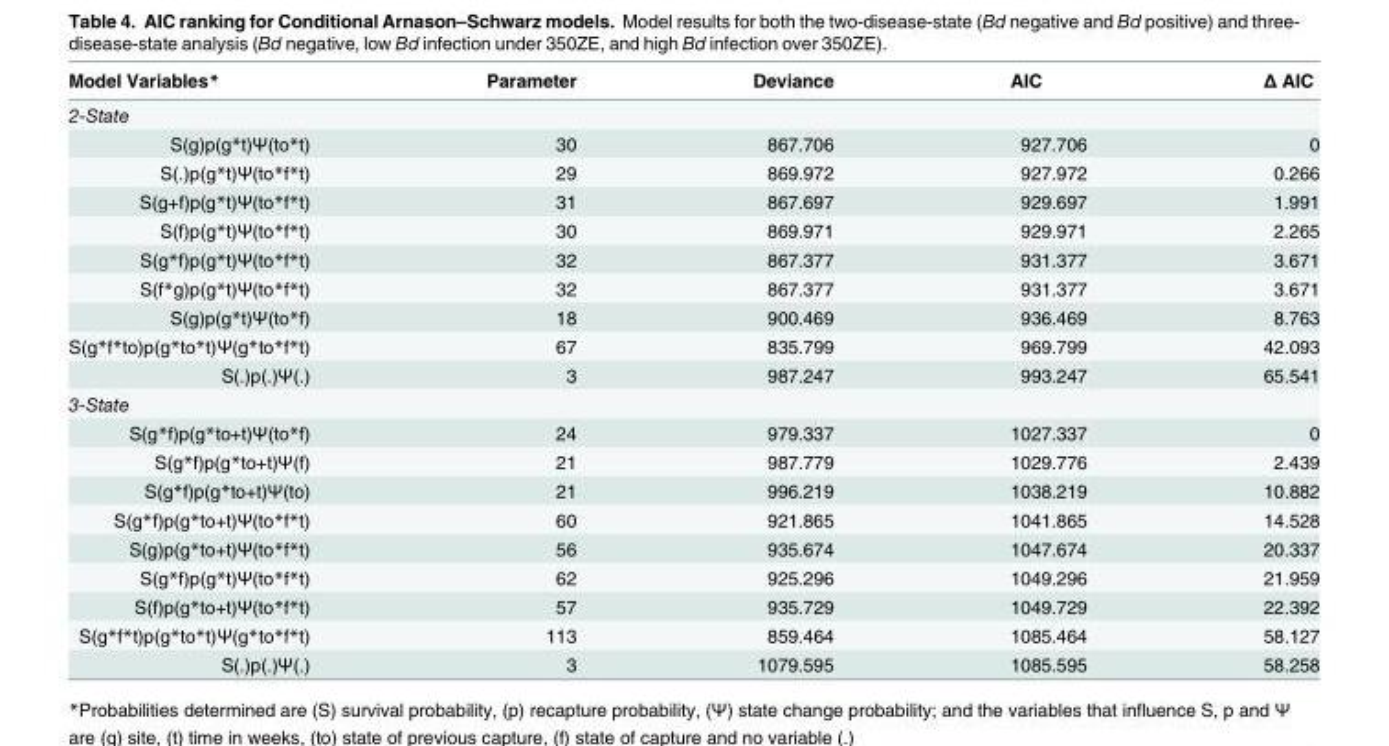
<table><thead><tr><td>Model Variables*</td><td>Parameter</td><td>Deviance</td><td>AIC</td><td>Δ AIC</td></tr></thead><tbody><tr><td colspan="5">2-State</td></tr><tr><td>S(g)p(g*t)Ψ(to*t)</td><td>30</td><td>867.706</td><td>927.706</td><td>0</td></tr><tr><td>S(.)p(g*t)Ψ(to*f*t)</td><td>29</td><td>869.972</td><td>927.972</td><td>0.266</td></tr><tr><td>S(g+f)p(g*t)Ψ(to*f*t)</td><td>31</td><td>867.697</td><td>929.697</td><td>1.991</td></tr><tr><td>S(f)p(g*t)Ψ(to*f*t)</td><td>30</td><td>869.971</td><td>929.971</td><td>2.265</td></tr><tr><td>S(g*f)p(g*t)Ψ(to*f*t)</td><td>32</td><td>867.377</td><td>931.377</td><td>3.671</td></tr><tr><td>S(f*g)p(g*t)Ψ(to*f*t)</td><td>32</td><td>867.377</td><td>931.377</td><td>3.671</td></tr><tr><td>S(g)p(g*t)Ψ(to*f)</td><td>18</td><td>900.469</td><td>936.469</td><td>8.763</td></tr><tr><td>S(g*f*to)p(g*to*t)Ψ(g*to*f*t)</td><td>67</td><td>835.799</td><td>969.799</td><td>42.093</td></tr><tr><td>S(.)p(.)Ψ(.)</td><td>3</td><td>987.247</td><td>993.247</td><td>65.541</td></tr><tr><td colspan="5">3-State</td></tr><tr><td>S(g*f)p(g*to+t)Ψ(to*f)</td><td>24</td><td>979.337</td><td>1027.337</td><td>0</td></tr><tr><td>S(g*f)p(g*to+t)Ψ(f)</td><td>21</td><td>987.779</td><td>1029.776</td><td>2.439</td></tr><tr><td>S(g*f)p(g*to+t)Ψ(to)</td><td>21</td><td>996.219</td><td>1038.219</td><td>10.882</td></tr><tr><td>S(g*f)p(g*to+t)Ψ(to*f*t)</td><td>60</td><td>921.865</td><td>1041.865</td><td>14.528</td></tr><tr><td>S(g)p(g*to+t)Ψ(to*f*t)</td><td>56</td><td>935.674</td><td>1047.674</td><td>20.337</td></tr><tr><td>S(g*f)p(g*t)Ψ(to*f*t)</td><td>62</td><td>925.296</td><td>1049.296</td><td>21.959</td></tr><tr><td>S(f)p(g*to+t)Ψ(to*f*t)</td><td>57</td><td>935.729</td><td>1049.729</td><td>22.392</td></tr><tr><td>S(g*f*t)p(g*to*t)Ψ(g*to*f*t)</td><td>113</td><td>859.464</td><td>1085.464</td><td>58.127</td></tr><tr><td>S(.)p(.)Ψ(.)</td><td>3</td><td>1079.595</td><td>1085.595</td><td>58.258</td></tr></tbody></table>